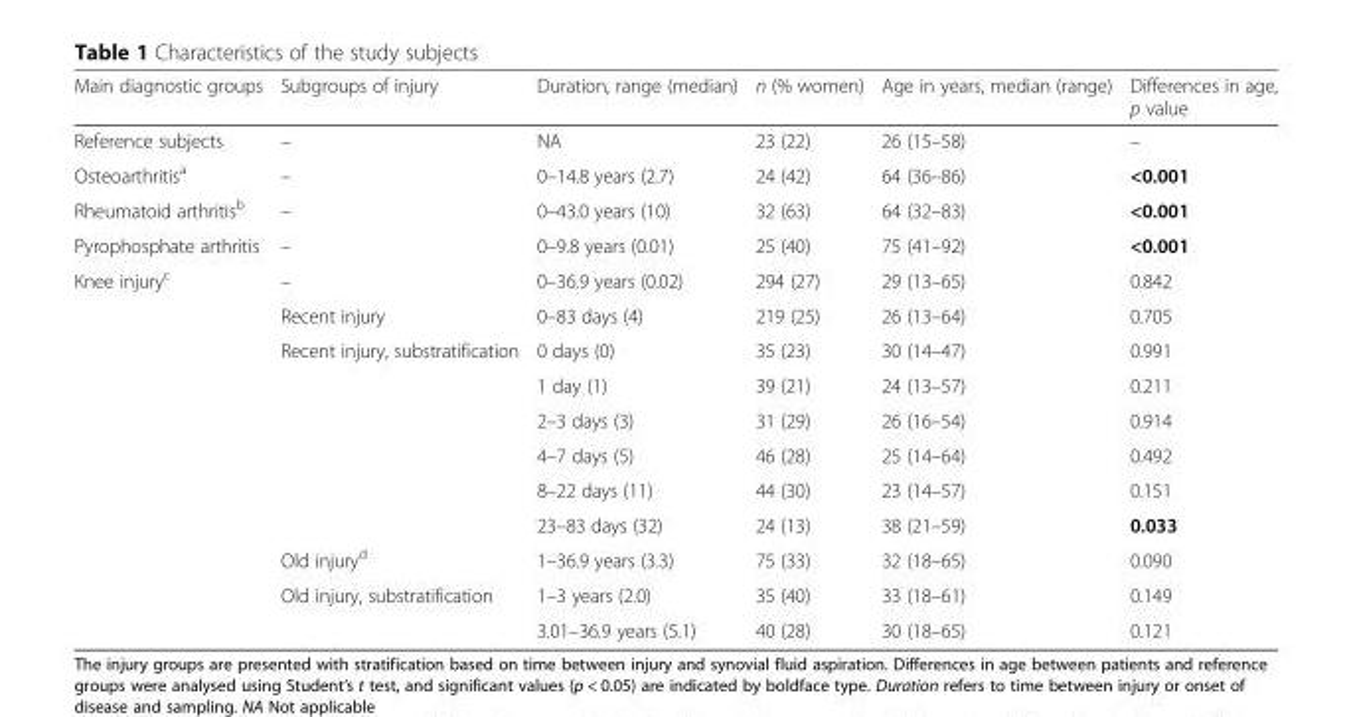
<table><thead><tr><td>Main diagnostic groups</td><td>Subgroups of injury</td><td>Duration, range (median)</td><td>n (% women)</td><td>Age in years, median (range)</td><td>Differences in age, p value</td></tr></thead><tbody><tr><td>Reference subjects</td><td>–</td><td>NA</td><td>23 (22)</td><td>26 (15–58)</td><td>–</td></tr><tr><td>Osteoarthritis<sup>a</sup></td><td>–</td><td>0–14.8 years (2.7)</td><td>24 (42)</td><td>64 (36–86)</td><td>&lt;0.001</td></tr><tr><td>Rheumatoid arthritis<sup>b</sup></td><td>–</td><td>0–43.0 years (10)</td><td>32 (63)</td><td>64 (32–83)</td><td>&lt;0.001</td></tr><tr><td>Pyrophosphate arthritis</td><td>–</td><td>0–9.8 years (0.01)</td><td>25 (40)</td><td>75 (41–92)</td><td>&lt;0.001</td></tr><tr><td rowspan="11">Knee injury<sup>c</sup></td><td>–</td><td>0–36.9 years (0.02)</td><td>294 (27)</td><td>29 (13–65)</td><td>0.842</td></tr><tr><td>Recent injury</td><td>0–83 days (4)</td><td>219 (25)</td><td>26 (13–64)</td><td>0.705</td></tr><tr><td rowspan="6">Recent injury, substratification</td><td>0 days (0)</td><td>35 (23)</td><td>30 (14–47)</td><td>0.991</td></tr><tr><td>1 day (1)</td><td>39 (21)</td><td>24 (13–57)</td><td>0.211</td></tr><tr><td>2–3 days (3)</td><td>31 (29)</td><td>26 (16–54)</td><td>0.914</td></tr><tr><td>4–7 days (5)</td><td>46 (28)</td><td>25 (14–64)</td><td>0.492</td></tr><tr><td>8–22 days (11)</td><td>44 (30)</td><td>23 (14–57)</td><td>0.151</td></tr><tr><td>23–83 days (32)</td><td>24 (13)</td><td>38 (21–59)</td><td>0.033</td></tr><tr><td>Old injury<sup>d</sup></td><td>1–36.9 years (3.3)</td><td>75 (33)</td><td>32 (18–65)</td><td>0.090</td></tr><tr><td>Old injury, substratification</td><td>1–3 years (2.0)</td><td>35 (40)</td><td>33 (18–61)</td><td>0.149</td></tr><tr><td></td><td>3.01–36.9 years (5.1)</td><td>40 (28)</td><td>30 (18–65)</td><td>0.121</td></tr></tbody></table>